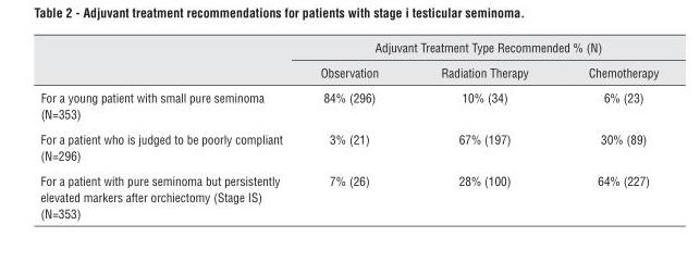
<table><thead><tr><td rowspan="2"></td><td colspan="3">Adjuvant Treatment Type Recommended % (N)</td></tr><tr><td>Observation</td><td>Radiation Therapy</td><td>Chemotherapy</td></tr></thead><tbody><tr><td>For a young patient with small pure seminoma (N=353)</td><td>84% (296)</td><td>10% (34)</td><td>6% (23)</td></tr><tr><td>For a patient who is judged to be poorly compliant (N=296)</td><td>3% (21)</td><td>67% (197)</td><td>30% (89)</td></tr><tr><td>For a patient with pure seminoma but persistently elevated markers after orchiectomy (Stage IS) (N=353)</td><td>7% (26)</td><td>28% (100)</td><td>64% (227)</td></tr></tbody></table>